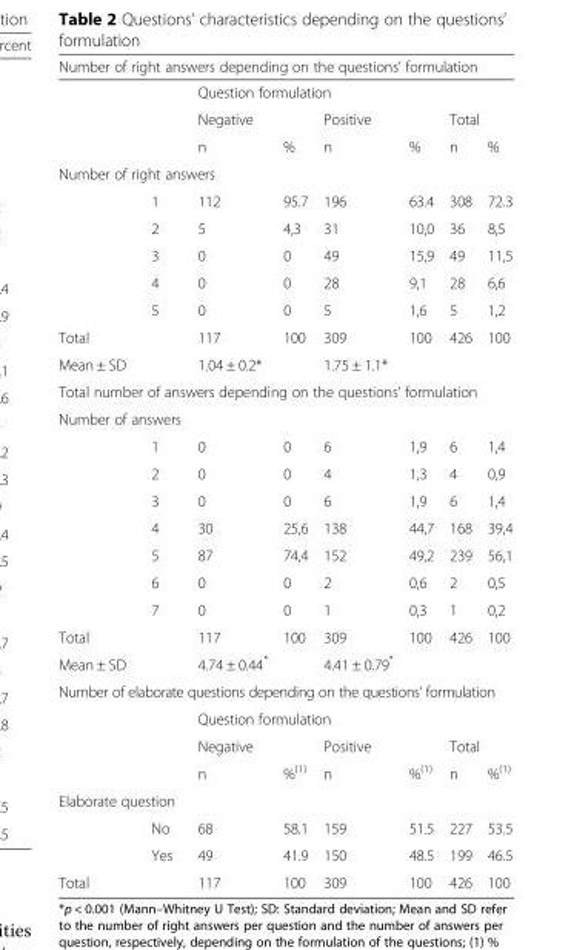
<table><thead><tr><td colspan="8">Number of right answers depending on the questions’ formulation</td></tr></thead><tbody><tr><td colspan="2"></td><td colspan="4">Question formulation</td><td></td><td></td></tr><tr><td colspan="2"></td><td colspan="2">Negative</td><td colspan="2">Positive</td><td colspan="2">Total</td></tr><tr><td colspan="2"></td><td>n</td><td>%</td><td>n</td><td>%</td><td>n</td><td>%</td></tr><tr><td colspan="8">Number of right answers</td></tr><tr><td></td><td>1</td><td>112</td><td>95.7</td><td>196</td><td>63.4</td><td>308</td><td>72.3</td></tr><tr><td></td><td>2</td><td>5</td><td>4,3</td><td>31</td><td>10,0</td><td>36</td><td>8,5</td></tr><tr><td></td><td>3</td><td>0</td><td>0</td><td>49</td><td>15,9</td><td>49</td><td>11,5</td></tr><tr><td></td><td>4</td><td>0</td><td>0</td><td>28</td><td>9,1</td><td>28</td><td>6,6</td></tr><tr><td></td><td>5</td><td>0</td><td>0</td><td>5</td><td>1,6</td><td>5</td><td>1,2</td></tr><tr><td>Total</td><td></td><td>117</td><td>100</td><td>309</td><td>100</td><td>426</td><td>100</td></tr><tr><td>Mean ± SD</td><td></td><td>1.04 ± 0.2*</td><td></td><td>1.75 ± 1.1*</td><td></td><td></td><td></td></tr><tr><td colspan="8">Total number of answers depending on the questions’ formulation</td></tr><tr><td colspan="8">Number of answers</td></tr><tr><td></td><td>1</td><td>0</td><td>0</td><td>6</td><td>1,9</td><td>6</td><td>1,4</td></tr><tr><td></td><td>2</td><td>0</td><td>0</td><td>4</td><td>1,3</td><td>4</td><td>0,9</td></tr><tr><td></td><td>3</td><td>0</td><td>0</td><td>6</td><td>1,9</td><td>6</td><td>1,4</td></tr><tr><td></td><td>4</td><td>30</td><td>25,6</td><td>138</td><td>44,7</td><td>168</td><td>39,4</td></tr><tr><td></td><td>5</td><td>87</td><td>74,4</td><td>152</td><td>49,2</td><td>239</td><td>56,1</td></tr><tr><td></td><td>6</td><td>0</td><td>0</td><td>2</td><td>0,6</td><td>2</td><td>0,5</td></tr><tr><td></td><td>7</td><td>0</td><td>0</td><td>1</td><td>0,3</td><td>1</td><td>0,2</td></tr><tr><td>Total</td><td></td><td>117</td><td>100</td><td>309</td><td>100</td><td>426</td><td>100</td></tr><tr><td>Mean ± SD</td><td></td><td>4.74 ± 0.44*</td><td></td><td>4.41 ± 0.79*</td><td></td><td></td><td></td></tr><tr><td colspan="8">Number of elaborate questions depending on the questions’ formulation</td></tr><tr><td></td><td></td><td colspan="4">Question formulation</td><td></td><td></td></tr><tr><td colspan="2"></td><td colspan="2">Negative</td><td colspan="2">Positive</td><td colspan="2">Total</td></tr><tr><td></td><td></td><td>n</td><td>%<sup>(1)</sup></td><td>n</td><td>%<sup>(1)</sup></td><td>n</td><td>%<sup>(1)</sup></td></tr><tr><td colspan="8">Elaborate question</td></tr><tr><td></td><td>No</td><td>68</td><td>58.1</td><td>159</td><td>51.5</td><td>227</td><td>53.5</td></tr><tr><td></td><td>Yes</td><td>49</td><td>41.9</td><td>150</td><td>48.5</td><td>199</td><td>46.5</td></tr><tr><td>Total</td><td></td><td>117</td><td>100</td><td>309</td><td>100</td><td>426</td><td>100</td></tr></tbody></table>